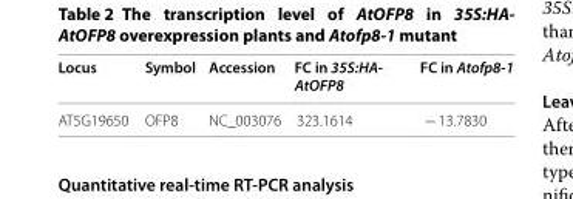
<table><thead><tr><td>Locus</td><td>Symbol</td><td>Accession</td><td>FC in 35S:HA‑ AtOFP8</td><td>FC in Atofp8‑1</td></tr></thead><tbody><tr><td>AT5G19650</td><td>OFP8</td><td>NC_003076</td><td>323.1614</td><td>− 13.7830</td></tr></tbody></table>